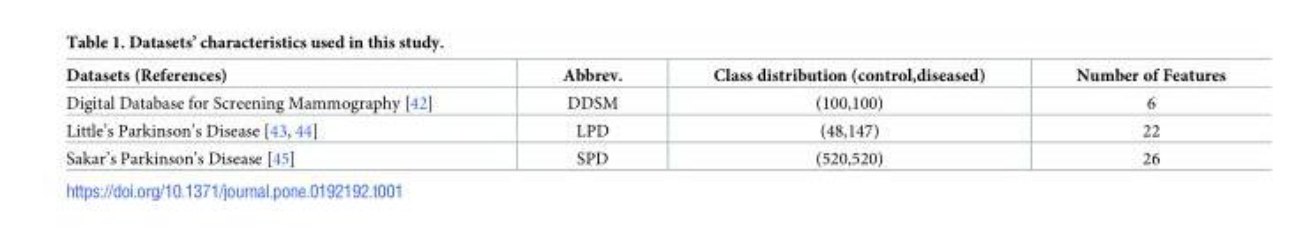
<table><thead><tr><td>Datasets (References)</td><td>Abbrev.</td><td>Class distribution (control,diseased)</td><td>Number of Features</td></tr></thead><tbody><tr><td>Digital Database for Screening Mammography [42]</td><td>DDSM</td><td>(100,100)</td><td>6</td></tr><tr><td>Little’s Parkinson’s Disease [43, 44]</td><td>LPD</td><td>(48,147)</td><td>22</td></tr><tr><td>Sakar’s Parkinson’s Disease [45]</td><td>SPD</td><td>(520,520)</td><td>26</td></tr></tbody></table>